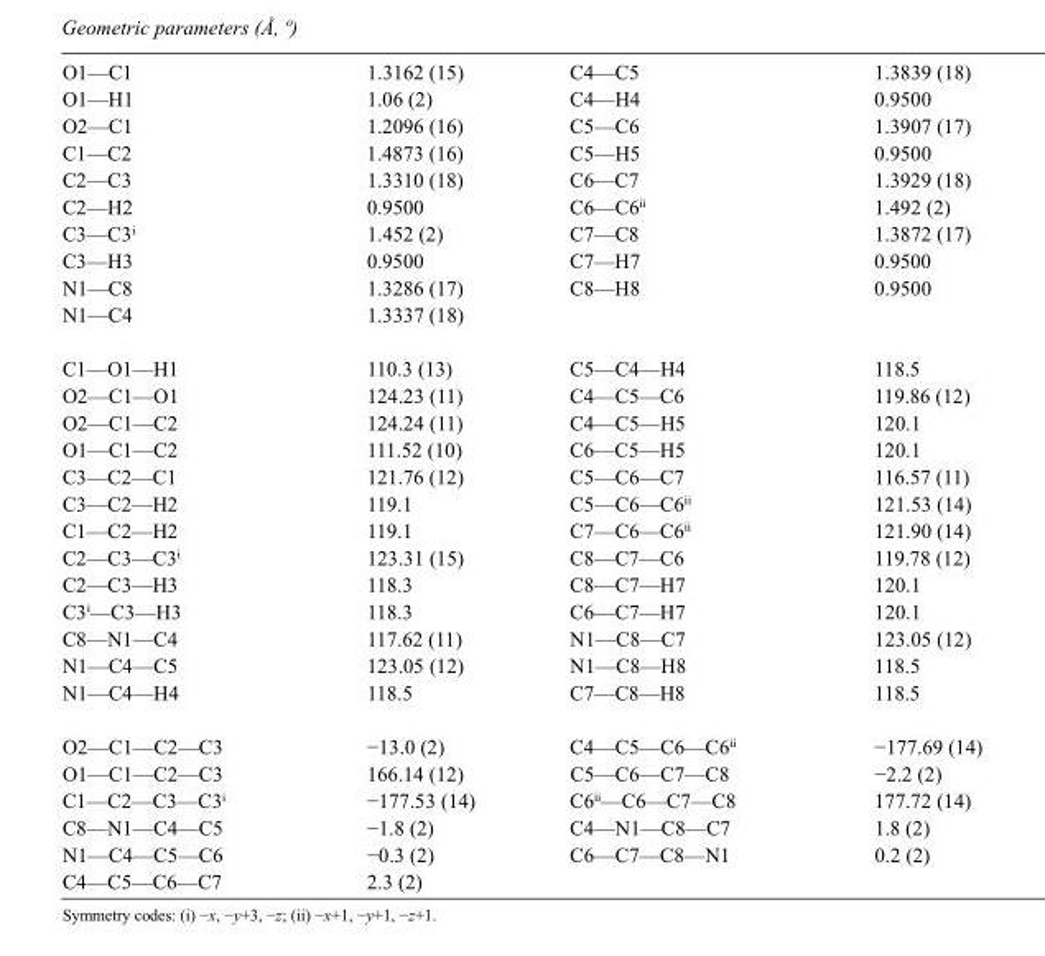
<table><tbody><tr><td>O1—C1</td><td>1.3162 (15)</td><td>C4—C5</td><td>1.3839 (18)</td></tr><tr><td>O1—H1</td><td>1.06 (2)</td><td>C4—H4</td><td>0.9500</td></tr><tr><td>O2—C1</td><td>1.2096 (16)</td><td>C5—C6</td><td>1.3907 (17)</td></tr><tr><td>C1—C2</td><td>1.4873 (16)</td><td>C5—H5</td><td>0.9500</td></tr><tr><td>C2—C3</td><td>1.3310 (18)</td><td>C6—C7</td><td>1.3929 (18)</td></tr><tr><td>C2—H2</td><td>0.9500</td><td>C6—C6<sup>ii</sup></td><td>1.492 (2)</td></tr><tr><td>C3—C3<sup>i</sup></td><td>1.452 (2)</td><td>C7—C8</td><td>1.3872 (17)</td></tr><tr><td>C3—H3</td><td>0.9500</td><td>C7—H7</td><td>0.9500</td></tr><tr><td>N1—C8</td><td>1.3286 (17)</td><td>C8—H8</td><td>0.9500</td></tr><tr><td>N1—C4</td><td>1.3337 (18)</td><td></td><td></td></tr><tr><td>C1—O1—H1</td><td>110.3 (13)</td><td>C5—C4—H4</td><td>118.5</td></tr><tr><td>O2—C1—O1</td><td>124.23 (11)</td><td>C4—C5—C6</td><td>119.86 (12)</td></tr><tr><td>O2—C1—C2</td><td>124.24 (11)</td><td>C4—C5—H5</td><td>120.1</td></tr><tr><td>O1—C1—C2</td><td>111.52 (10)</td><td>C6—C5—H5</td><td>120.1</td></tr><tr><td>C3—C2—C1</td><td>121.76 (12)</td><td>C5—C6—C7</td><td>116.57 (11)</td></tr><tr><td>C3—C2—H2</td><td>119.1</td><td>C5—C6—C6<sup>ii</sup></td><td>121.53 (14)</td></tr><tr><td>C1—C2—H2</td><td>119.1</td><td>C7—C6—C6<sup>ii</sup></td><td>121.90 (14)</td></tr><tr><td>C2—C3—C3<sup>i</sup></td><td>123.31 (15)</td><td>C8—C7—C6</td><td>119.78 (12)</td></tr><tr><td>C2—C3—H3</td><td>118.3</td><td>C8—C7—H7</td><td>120.1</td></tr><tr><td>C3<sup>i</sup>—C3—H3</td><td>118.3</td><td>C6—C7—H7</td><td>120.1</td></tr><tr><td>C8—N1—C4</td><td>117.62 (11)</td><td>N1—C8—C7</td><td>123.05 (12)</td></tr><tr><td>N1—C4—C5</td><td>123.05 (12)</td><td>N1—C8—H8</td><td>118.5</td></tr><tr><td>N1—C4—H4</td><td>118.5</td><td>C7—C8—H8</td><td>118.5</td></tr><tr><td>O2—C1—C2—C3</td><td>−13.0 (2)</td><td>C4—C5—C6—C6<sup>ii</sup></td><td>−177.69 (14)</td></tr><tr><td>O1—C1—C2—C3</td><td>166.14 (12)</td><td>C5—C6—C7—C8</td><td>−2.2 (2)</td></tr><tr><td>C1—C2—C3—C3<sup>i</sup></td><td>−177.53 (14)</td><td>C6<sup>ii</sup>—C6—C7—C8</td><td>177.72 (14)</td></tr><tr><td>C8—N1—C4—C5</td><td>−1.8 (2)</td><td>C4—N1—C8—C7</td><td>1.8 (2)</td></tr><tr><td>N1—C4—C5—C6</td><td>−0.3 (2)</td><td>C6—C7—C8—N1</td><td>0.2 (2)</td></tr><tr><td>C4—C5—C6—C7</td><td>2.3 (2)</td><td></td><td></td></tr></tbody></table>